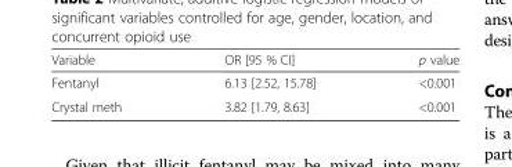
<table><thead><tr><td>Variable</td><td>OR [95 % CI]</td><td>p value</td></tr></thead><tbody><tr><td>Fentanyl</td><td>6.13 [2.52, 15.78]</td><td>&lt;0.001</td></tr><tr><td>Crystal meth</td><td>3.82 [1.79, 8.63]</td><td>&lt;0.001</td></tr></tbody></table>